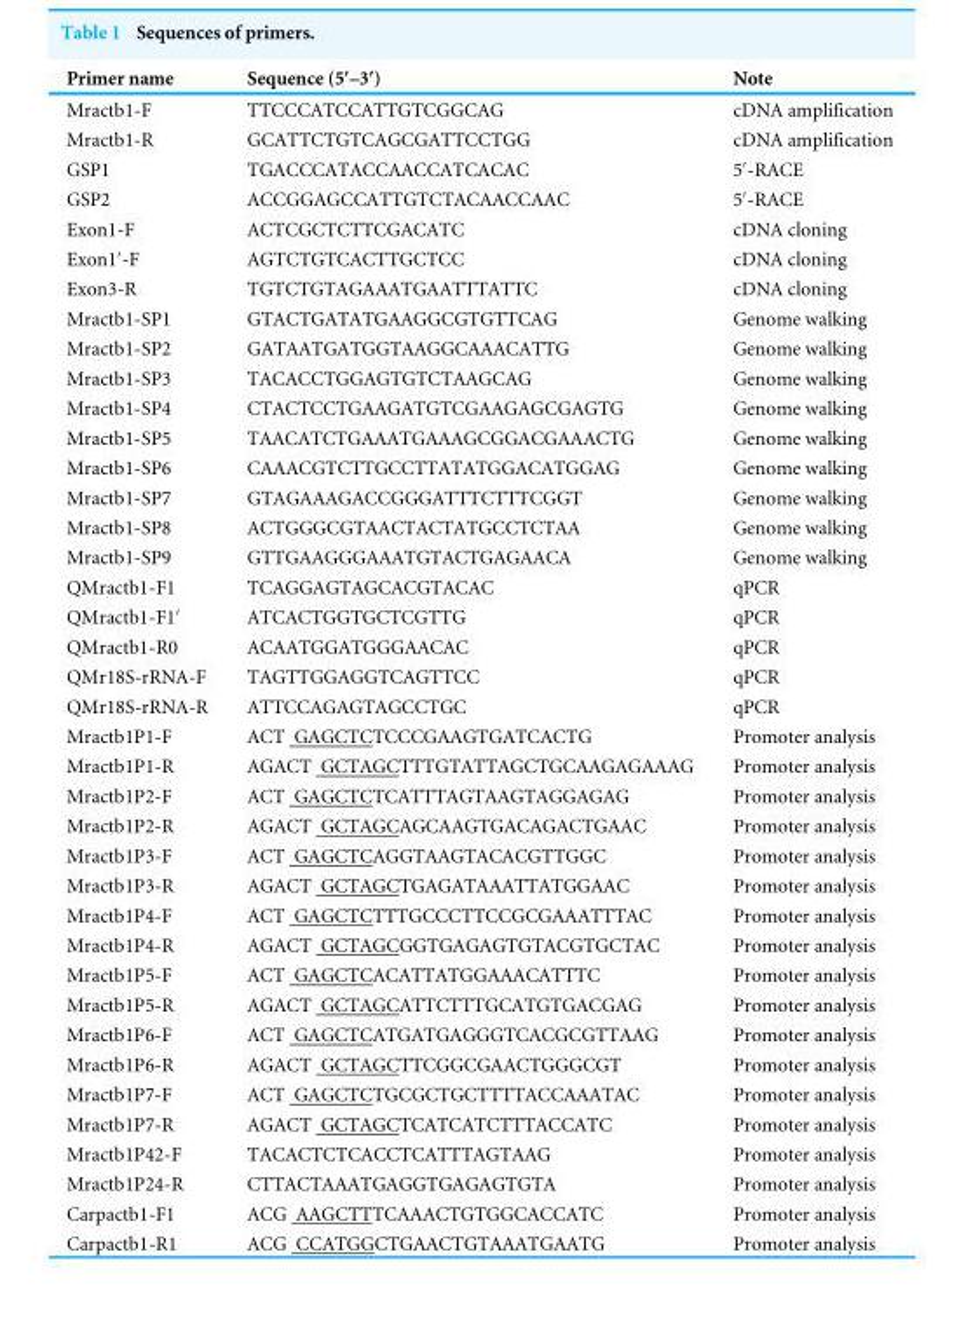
<table><thead><tr><td>Primer name</td><td>Sequence (5′–3′)</td><td>Note</td></tr></thead><tbody><tr><td>Mractb1-F</td><td>TTCCCATCCATTGTCGGCAG</td><td>cDNA amplification</td></tr><tr><td>Mractb1-R</td><td>GCATTCTGTCAGCGATTCCTGG</td><td>cDNA amplification</td></tr><tr><td>GSP1</td><td>TGACCCATACCAACCATCACAC</td><td>5′-RACE</td></tr><tr><td>GSP2</td><td>ACCGGAGCCATTGTCTACAACCAAC</td><td>5′-RACE</td></tr><tr><td>Exon1-F</td><td>ACTCGCTCTTCGACATC</td><td>cDNA cloning</td></tr><tr><td>Exon1′-F</td><td>AGTCTGTCACTTGCTCC</td><td>cDNA cloning</td></tr><tr><td>Exon3-R</td><td>TGTCTGTAGAAATGAATTTATTC</td><td>cDNA cloning</td></tr><tr><td>Mractb1-SP1</td><td>GTACTGATATGAAGGCGTGTTCAG</td><td>Genome walking</td></tr><tr><td>Mractb1-SP2</td><td>GATAATGATGGTAAGGCAAACATTG</td><td>Genome walking</td></tr><tr><td>Mractb1-SP3</td><td>TACACCTGGAGTGTCTAAGCAG</td><td>Genome walking</td></tr><tr><td>Mractb1-SP4</td><td>CTACTCCTGAAGATGTCGAAGAGCGAGTG</td><td>Genome walking</td></tr><tr><td>Mractb1-SP5</td><td>TAACATCTGAAATGAAAGCGGACGAAACTG</td><td>Genome walking</td></tr><tr><td>Mractb1-SP6</td><td>CAAACGTCTTGCCTTATATGGACATGGAG</td><td>Genome walking</td></tr><tr><td>Mractb1-SP7</td><td>GTAGAAAGACCGGGATTTCTTTCGGT</td><td>Genome walking</td></tr><tr><td>Mractb1-SP8</td><td>ACTGGGCGTAACTACTATGCCTCTAA</td><td>Genome walking</td></tr><tr><td>Mractb1-SP9</td><td>GTTGAAGGGAAATGTACTGAGAACA</td><td>Genome walking</td></tr><tr><td>QMractb1-F1</td><td>TCAGGAGTAGCACGTACAC</td><td>qPCR</td></tr><tr><td>QMractb1-F1′</td><td>ATCACTGGTGCTCGTTG</td><td>qPCR</td></tr><tr><td>QMractb1-R0</td><td>ACAATGGATGGGAACAC</td><td>qPCR</td></tr><tr><td>QMr18S-rRNA-F</td><td>TAGTTGGAGGTCAGTTCC</td><td>qPCR</td></tr><tr><td>QMr18S-rRNA-R</td><td>ATTCCAGAGTAGCCTGC</td><td>qPCR</td></tr><tr><td>Mractb1P1-F</td><td>ACT GAGCTCTCCCGAAGTGATCACTG</td><td>Promoter analysis</td></tr><tr><td>Mractb1P1-R</td><td>AGACT GCTAGCTTTGTATTAGCTGCAAGAGAAAG</td><td>Promoter analysis</td></tr><tr><td>Mractb1P2-F</td><td>ACT GAGCTCTCATTTAGTAAGTAGGAGAG</td><td>Promoter analysis</td></tr><tr><td>Mractb1P2-R</td><td>AGACT GCTAGCAGCAAGTGACAGACTGAAC</td><td>Promoter analysis</td></tr><tr><td>Mractb1P3-F</td><td>ACT GAGCTCAGGTAAGTACACGTTGGC</td><td>Promoter analysis</td></tr><tr><td>Mractb1P3-R</td><td>AGACT GCTAGCTGAGATAAATTATGGAAC</td><td>Promoter analysis</td></tr><tr><td>Mractb1P4-F</td><td>ACT GAGCTCTTTGCCCTTCCGCGAAATTTAC</td><td>Promoter analysis</td></tr><tr><td>Mractb1P4-R</td><td>AGACT GCTAGCGGTGAGAGTGTACGTGCTAC</td><td>Promoter analysis</td></tr><tr><td>Mractb1P5-F</td><td>ACT GAGCTCACATTATGGAAACATTTC</td><td>Promoter analysis</td></tr><tr><td>Mractb1P5-R</td><td>AGACT GCTAGCATTCTTTGCATGTGACGAG</td><td>Promoter analysis</td></tr><tr><td>Mractb1P6-F</td><td>ACT GAGCTCATGATGAGGGTCACGCGTTAAG</td><td>Promoter analysis</td></tr><tr><td>Mractb1P6-R</td><td>AGACT GCTAGCTTCGGCGAACTGGGCGT</td><td>Promoter analysis</td></tr><tr><td>Mractb1P7-F</td><td>ACT GAGCTCTGCGCTGCTTTTACCAAATAC</td><td>Promoter analysis</td></tr><tr><td>Mractb1P7-R</td><td>AGACT GCTAGCTCATCATCTTTACCATC</td><td>Promoter analysis</td></tr><tr><td>Mractb1P42-F</td><td>TACACTCTCACCTCATTTAGTAAG</td><td>Promoter analysis</td></tr><tr><td>Mractb1P24-R</td><td>CTTACTAAATGAGGTGAGAGTGTA</td><td>Promoter analysis</td></tr><tr><td>Carpactb1-F1</td><td>ACG AAGCTTTCAAACTGTGGCACCATC</td><td>Promoter analysis</td></tr><tr><td>Carpactb1-R1</td><td>ACG CCATGGCTGAACTGTAAATGAATG</td><td>Promoter analysis</td></tr></tbody></table>